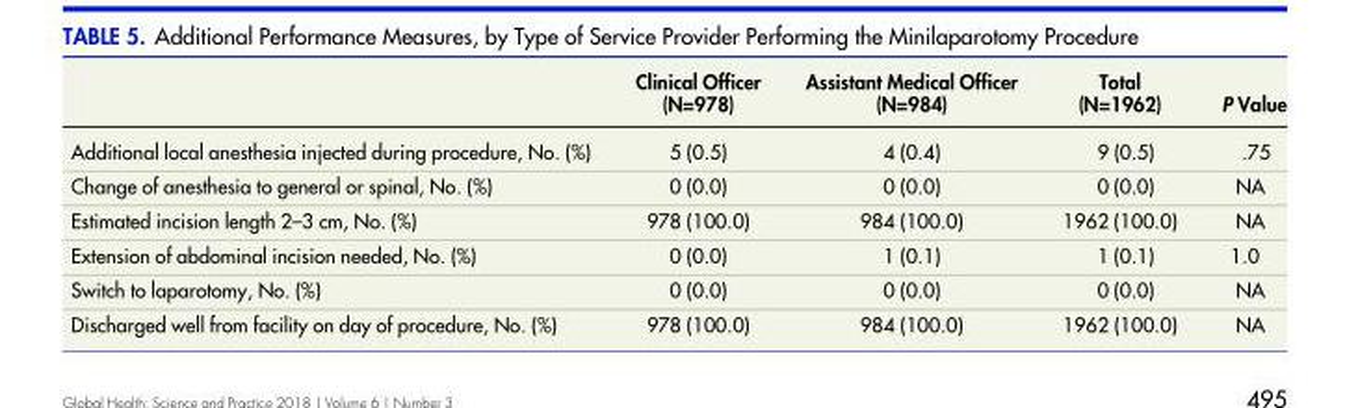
<table><thead><tr><td></td><td>Clinical Officer (N=978)</td><td>Assistant Medical Officer (N=984)</td><td>Total (N=1962)</td><td>P Value</td></tr></thead><tbody><tr><td>Additional local anesthesia injected during procedure, No. (%)</td><td>5 (0.5)</td><td>4 (0.4)</td><td>9 (0.5)</td><td>.75</td></tr><tr><td>Change of anesthesia to general or spinal, No. (%)</td><td>0 (0.0)</td><td>0 (0.0)</td><td>0 (0.0)</td><td>NA</td></tr><tr><td>Estimated incision length 2–3 cm, No. (%)</td><td>978 (100.0)</td><td>984 (100.0)</td><td>1962 (100.0)</td><td>NA</td></tr><tr><td>Extension of abdominal incision needed, No. (%)</td><td>0 (0.0)</td><td>1 (0.1)</td><td>1 (0.1)</td><td>1.0</td></tr><tr><td>Switch to laparotomy, No. (%)</td><td>0 (0.0)</td><td>0 (0.0)</td><td>0 (0.0)</td><td>NA</td></tr><tr><td>Discharged well from facility on day of procedure, No. (%)</td><td>978 (100.0)</td><td>984 (100.0)</td><td>1962 (100.0)</td><td>NA</td></tr></tbody></table>